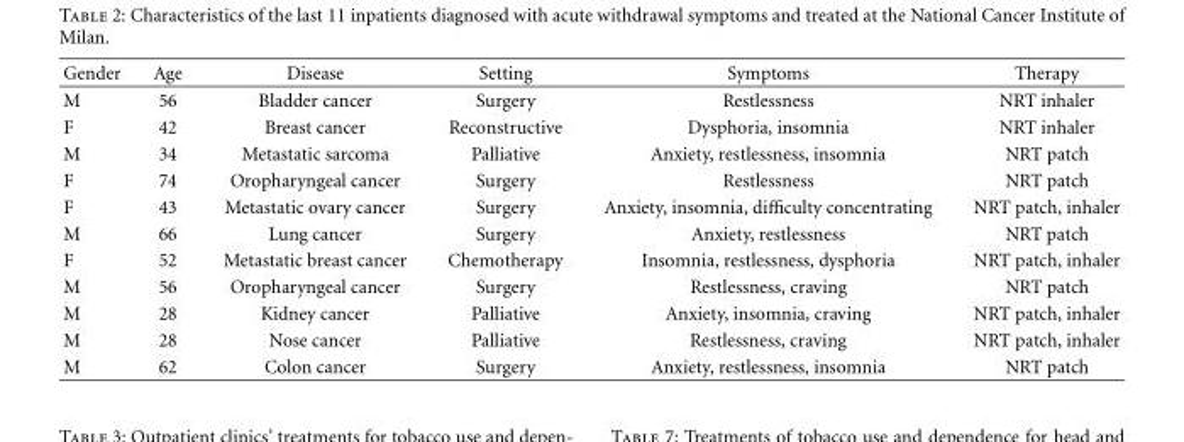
<table><thead><tr><td>Gender</td><td>Age</td><td>Disease</td><td>Setting</td><td>Symptoms</td><td>Therapy</td></tr></thead><tbody><tr><td>M</td><td>56</td><td>Bladder cancer</td><td>Surgery</td><td>Restlessness</td><td>NRT inhaler</td></tr><tr><td>F</td><td>42</td><td>Breast cancer</td><td>Reconstructive</td><td>Dysphoria, insomnia</td><td>NRT inhaler</td></tr><tr><td>M</td><td>34</td><td>Metastatic sarcoma</td><td>Palliative</td><td>Anxiety, restlessness, insomnia</td><td>NRT patch</td></tr><tr><td>F</td><td>74</td><td>Oropharyngeal cancer</td><td>Surgery</td><td>Restlessness</td><td>NRT patch</td></tr><tr><td>F</td><td>43</td><td>Metastatic ovary cancer</td><td>Surgery</td><td>Anxiety, insomnia, difficulty concentrating</td><td>NRT patch, inhaler</td></tr><tr><td>M</td><td>66</td><td>Lung cancer</td><td>Surgery</td><td>Anxiety, restlessness</td><td>NRT patch</td></tr><tr><td>F</td><td>52</td><td>Metastatic breast cancer</td><td>Chemotherapy</td><td>Insomnia, restlessness, dysphoria</td><td>NRT patch, inhaler</td></tr><tr><td>M</td><td>56</td><td>Oropharyngeal cancer</td><td>Surgery</td><td>Restlessness, craving</td><td>NRT patch</td></tr><tr><td>M</td><td>28</td><td>Kidney cancer</td><td>Palliative</td><td>Anxiety, insomnia, craving</td><td>NRT patch, inhaler</td></tr><tr><td>M</td><td>28</td><td>Nose cancer</td><td>Palliative</td><td>Restlessness, craving</td><td>NRT patch, inhaler</td></tr><tr><td>M</td><td>62</td><td>Colon cancer</td><td>Surgery</td><td>Anxiety, restlessness, insomnia</td><td>NRT patch</td></tr></tbody></table>